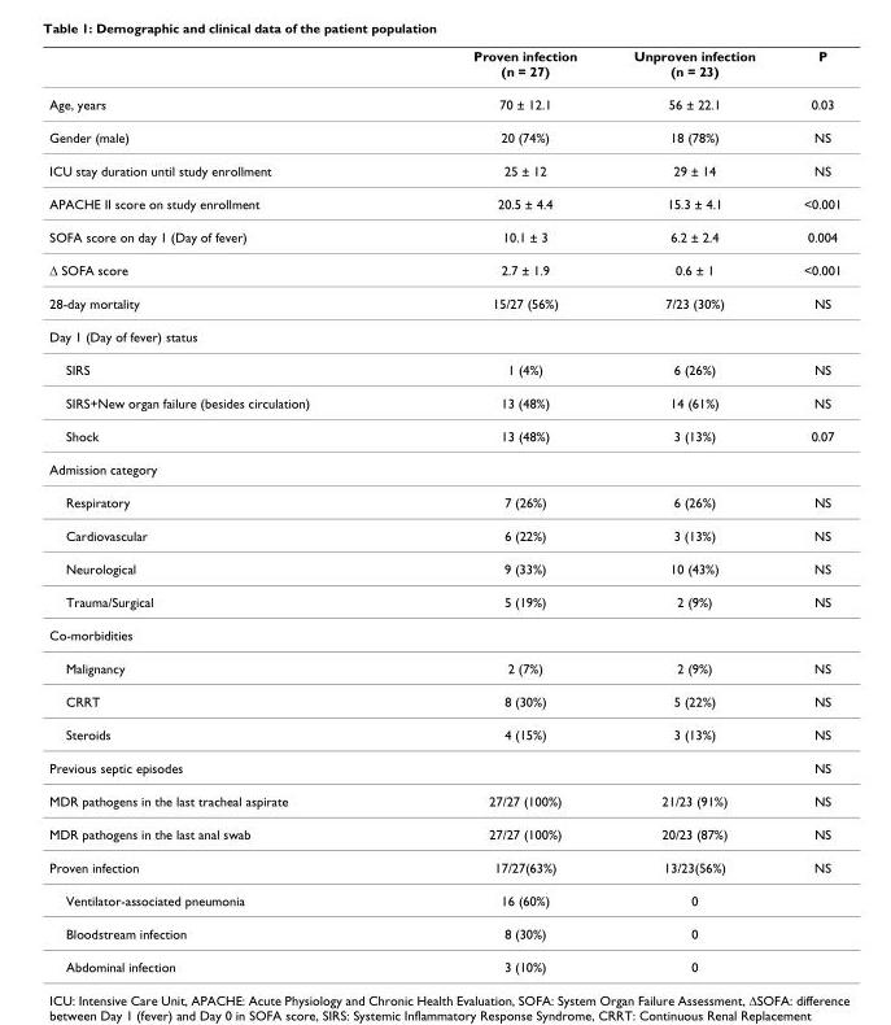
<table><thead><tr><td></td><td>Proven infection (n = 27)</td><td>Unproven infection (n = 23)</td><td>P</td></tr></thead><tbody><tr><td>Age, years</td><td>70 ± 12.1</td><td>56 ± 22.1</td><td>0.03</td></tr><tr><td>Gender (male)</td><td>20 (74%)</td><td>18 (78%)</td><td>NS</td></tr><tr><td>ICU stay duration until study enrollment</td><td>25 ± 12</td><td>29 ± 14</td><td>NS</td></tr><tr><td>APACHE II score on study enrollment</td><td>20.5 ± 4.4</td><td>15.3 ± 4.1</td><td>&lt;0.001</td></tr><tr><td>SOFA score on day 1 (Day of fever)</td><td>10.1 ± 3</td><td>6.2 ± 2.4</td><td>0.004</td></tr><tr><td>Δ SOFA score</td><td>2.7 ± 1.9</td><td>0.6 ± 1</td><td>&lt;0.001</td></tr><tr><td>28-day mortality</td><td>15/27 (56%)</td><td>7/23 (30%)</td><td>NS</td></tr><tr><td colspan="4">Day 1 (Day of fever) status</td></tr><tr><td>SIRS</td><td>1 (4%)</td><td>6 (26%)</td><td>NS</td></tr><tr><td>SIRS+New organ failure (besides circulation)</td><td>13 (48%)</td><td>14 (61%)</td><td>NS</td></tr><tr><td>Shock</td><td>13 (48%)</td><td>3 (13%)</td><td>0.07</td></tr><tr><td colspan="4">Admission category</td></tr><tr><td>Respiratory</td><td>7 (26%)</td><td>6 (26%)</td><td>NS</td></tr><tr><td>Cardiovascular</td><td>6 (22%)</td><td>3 (13%)</td><td>NS</td></tr><tr><td>Neurological</td><td>9 (33%)</td><td>10 (43%)</td><td>NS</td></tr><tr><td>Trauma/Surgical</td><td>5 (19%)</td><td>2 (9%)</td><td>NS</td></tr><tr><td colspan="4">Co-morbidities</td></tr><tr><td>Malignancy</td><td>2 (7%)</td><td>2 (9%)</td><td>NS</td></tr><tr><td>CRRT</td><td>8 (30%)</td><td>5 (22%)</td><td>NS</td></tr><tr><td>Steroids</td><td>4 (15%)</td><td>3 (13%)</td><td>NS</td></tr><tr><td>Previous septic episodes</td><td></td><td></td><td>NS</td></tr><tr><td>MDR pathogens in the last tracheal aspirate</td><td>27/27 (100%)</td><td>21/23 (91%)</td><td>NS</td></tr><tr><td>MDR pathogens in the last anal swab</td><td>27/27 (100%)</td><td>20/23 (87%)</td><td>NS</td></tr><tr><td>Proven infection</td><td>17/27(63%)</td><td>13/23(56%)</td><td>NS</td></tr><tr><td>Ventilator-associated pneumonia</td><td>16 (60%)</td><td>0</td><td></td></tr><tr><td>Bloodstream infection</td><td>8 (30%)</td><td>0</td><td></td></tr><tr><td>Abdominal infection</td><td>3 (10%)</td><td>0</td><td></td></tr></tbody></table>